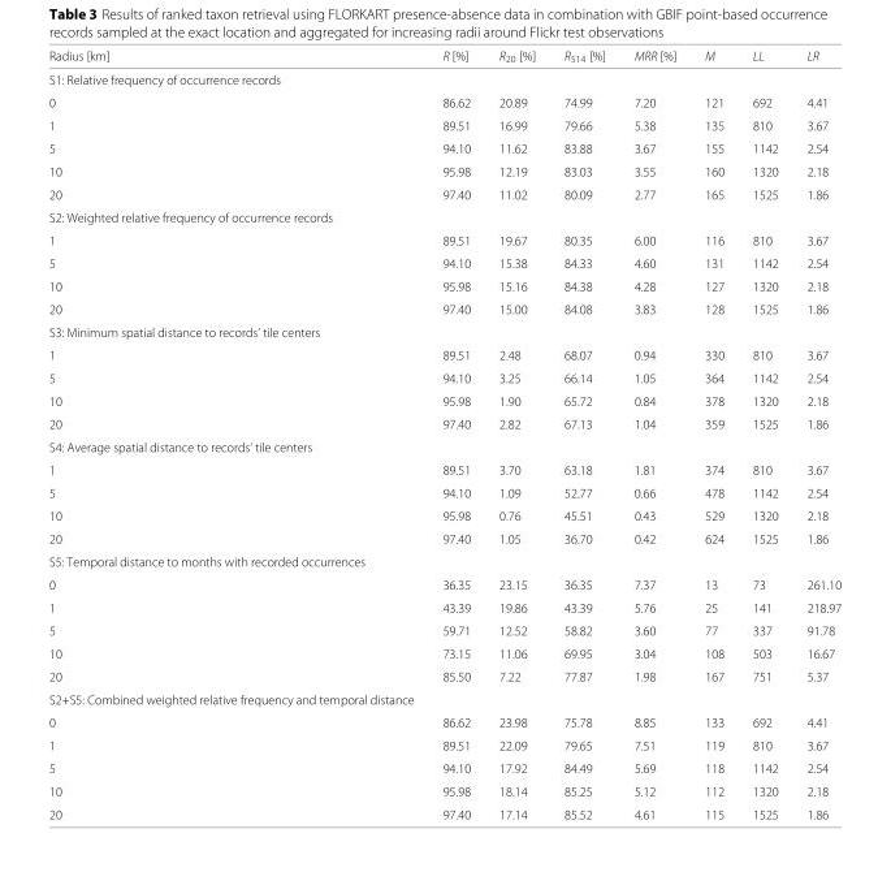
<table><thead><tr><td>Radius [km]</td><td>R [%]</td><td>R<sub>20</sub> [%]</td><td>R<sub>514</sub> [%]</td><td>MRR [%]</td><td>M</td><td>LL</td><td>LR</td></tr></thead><tbody><tr><td colspan="8">S1: Relative frequency of occurrence records</td></tr><tr><td>0</td><td>86.62</td><td>20.89</td><td>74.99</td><td>7.20</td><td>121</td><td>692</td><td>4.41</td></tr><tr><td>1</td><td>89.51</td><td>16.99</td><td>79.66</td><td>5.38</td><td>135</td><td>810</td><td>3.67</td></tr><tr><td>5</td><td>94.10</td><td>11.62</td><td>83.88</td><td>3.67</td><td>155</td><td>1142</td><td>2.54</td></tr><tr><td>10</td><td>95.98</td><td>12.19</td><td>83.03</td><td>3.55</td><td>160</td><td>1320</td><td>2.18</td></tr><tr><td>20</td><td>97.40</td><td>11.02</td><td>80.09</td><td>2.77</td><td>165</td><td>1525</td><td>1.86</td></tr><tr><td colspan="8">S2: Weighted relative frequency of occurrence records</td></tr><tr><td>1</td><td>89.51</td><td>19.67</td><td>80.35</td><td>6.00</td><td>116</td><td>810</td><td>3.67</td></tr><tr><td>5</td><td>94.10</td><td>15.38</td><td>84.33</td><td>4.60</td><td>131</td><td>1142</td><td>2.54</td></tr><tr><td>10</td><td>95.98</td><td>15.16</td><td>84.38</td><td>4.28</td><td>127</td><td>1320</td><td>2.18</td></tr><tr><td>20</td><td>97.40</td><td>15.00</td><td>84.08</td><td>3.83</td><td>128</td><td>1525</td><td>1.86</td></tr><tr><td colspan="8">S3: Minimum spatial distance to records’ tile centers</td></tr><tr><td>1</td><td>89.51</td><td>2.48</td><td>68.07</td><td>0.94</td><td>330</td><td>810</td><td>3.67</td></tr><tr><td>5</td><td>94.10</td><td>3.25</td><td>66.14</td><td>1.05</td><td>364</td><td>1142</td><td>2.54</td></tr><tr><td>10</td><td>95.98</td><td>1.90</td><td>65.72</td><td>0.84</td><td>378</td><td>1320</td><td>2.18</td></tr><tr><td>20</td><td>97.40</td><td>2.82</td><td>67.13</td><td>1.04</td><td>359</td><td>1525</td><td>1.86</td></tr><tr><td colspan="8">S4: Average spatial distance to records’ tile centers</td></tr><tr><td>1</td><td>89.51</td><td>3.70</td><td>63.18</td><td>1.81</td><td>374</td><td>810</td><td>3.67</td></tr><tr><td>5</td><td>94.10</td><td>1.09</td><td>52.77</td><td>0.66</td><td>478</td><td>1142</td><td>2.54</td></tr><tr><td>10</td><td>95.98</td><td>0.76</td><td>45.51</td><td>0.43</td><td>529</td><td>1320</td><td>2.18</td></tr><tr><td>20</td><td>97.40</td><td>1.05</td><td>36.70</td><td>0.42</td><td>624</td><td>1525</td><td>1.86</td></tr><tr><td colspan="8">S5: Temporal distance to months with recorded occurrences</td></tr><tr><td>0</td><td>36.35</td><td>23.15</td><td>36.35</td><td>7.37</td><td>13</td><td>73</td><td>261.10</td></tr><tr><td>1</td><td>43.39</td><td>19.86</td><td>43.39</td><td>5.76</td><td>25</td><td>141</td><td>218.97</td></tr><tr><td>5</td><td>59.71</td><td>12.52</td><td>58.82</td><td>3.60</td><td>77</td><td>337</td><td>91.78</td></tr><tr><td>10</td><td>73.15</td><td>11.06</td><td>69.95</td><td>3.04</td><td>108</td><td>503</td><td>16.67</td></tr><tr><td>20</td><td>85.50</td><td>7.22</td><td>77.87</td><td>1.98</td><td>167</td><td>751</td><td>5.37</td></tr><tr><td colspan="8">S2+S5: Combined weighted relative frequency and temporal distance</td></tr><tr><td>0</td><td>86.62</td><td>23.98</td><td>75.78</td><td>8.85</td><td>133</td><td>692</td><td>4.41</td></tr><tr><td>1</td><td>89.51</td><td>22.09</td><td>79.65</td><td>7.51</td><td>119</td><td>810</td><td>3.67</td></tr><tr><td>5</td><td>94.10</td><td>17.92</td><td>84.49</td><td>5.69</td><td>118</td><td>1142</td><td>2.54</td></tr><tr><td>10</td><td>95.98</td><td>18.14</td><td>85.25</td><td>5.12</td><td>112</td><td>1320</td><td>2.18</td></tr><tr><td>20</td><td>97.40</td><td>17.14</td><td>85.52</td><td>4.61</td><td>115</td><td>1525</td><td>1.86</td></tr></tbody></table>